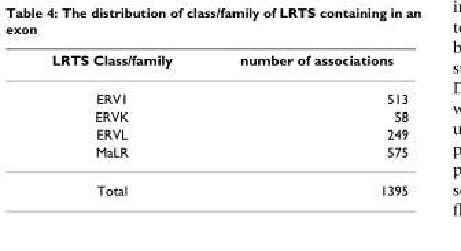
<table><thead><tr><td>LRTS Class/family</td><td>number of associations</td></tr></thead><tbody><tr><td>ERV1</td><td>513</td></tr><tr><td>ERVK</td><td>58</td></tr><tr><td>ERVL</td><td>249</td></tr><tr><td>MaLR</td><td>575</td></tr><tr><td>Total</td><td>1395</td></tr></tbody></table>